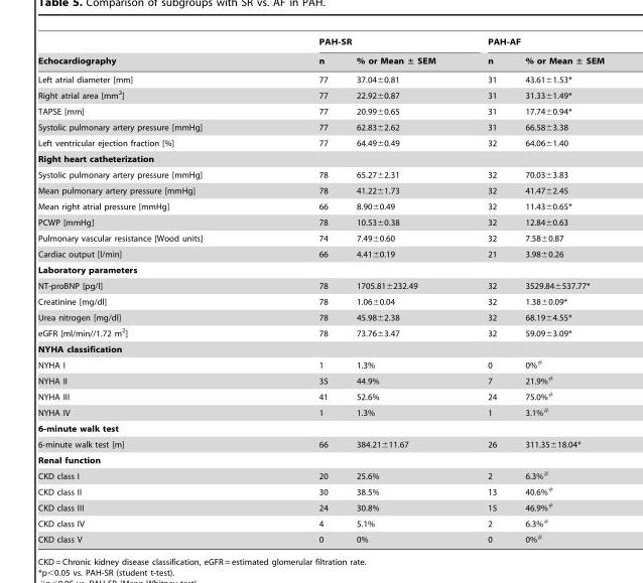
<table><thead><tr><td rowspan="2">Echocardiography</td><td colspan="2">PAH-SR</td><td colspan="2">PAH-AF</td></tr><tr><td>n</td><td>% or Mean ± SEM</td><td>n</td><td>% or Mean ± SEM</td></tr></thead><tbody><tr><td>Left atrial diameter [mm]</td><td>77</td><td>37.04±0.81</td><td>31</td><td>43.61±1.53*</td></tr><tr><td>Right atrial area [mm<sup>2</sup>]</td><td>77</td><td>22.92±0.87</td><td>31</td><td>31.33±1.49*</td></tr><tr><td>TAPSE [mm]</td><td>77</td><td>20.99±0.65</td><td>31</td><td>17.74±0.94*</td></tr><tr><td>Systolic pulmonary artery pressure [mmHg]</td><td>77</td><td>62.83±2.62</td><td>31</td><td>66.58±3.38</td></tr><tr><td>Left ventricular ejection fraction [%]</td><td>77</td><td>64.49±0.49</td><td>32</td><td>64.06±1.40</td></tr><tr><td colspan="5">Right heart catheterization</td></tr><tr><td>Systolic pulmonary artery pressure [mmHg]</td><td>78</td><td>65.27±2.31</td><td>32</td><td>70.03±3.83</td></tr><tr><td>Mean pulmonary artery pressure [mmHg]</td><td>78</td><td>41.22±1.73</td><td>32</td><td>41.47±2.45</td></tr><tr><td>Mean right atrial pressure [mmHg]</td><td>66</td><td>8.90±0.49</td><td>32</td><td>11.43±0.65*</td></tr><tr><td>PCWP [mmHg]</td><td>78</td><td>10.53±0.38</td><td>32</td><td>12.84±0.63</td></tr><tr><td>Pulmonary vascular resistance [Wood units]</td><td>74</td><td>7.49±0.60</td><td>32</td><td>7.58±0.87</td></tr><tr><td>Cardiac output [l/min]</td><td>66</td><td>4.41±0.19</td><td>21</td><td>3.98±0.26</td></tr><tr><td colspan="5">Laboratory parameters</td></tr><tr><td>NT-proBNP [pg/l]</td><td>78</td><td>1705.81±232.49</td><td>32</td><td>3529.84±537.77*</td></tr><tr><td>Creatinine [mg/dl]</td><td>78</td><td>1.06±0.04</td><td>32</td><td>1.38±0.09*</td></tr><tr><td>Urea nitrogen [mg/dl]</td><td>78</td><td>45.98±2.38</td><td>32</td><td>68.19±4.55*</td></tr><tr><td>eGFR [ml/min//1.72 m<sup>2</sup>]</td><td>78</td><td>73.76±3.47</td><td>32</td><td>59.09±3.09*</td></tr><tr><td colspan="5">NYHA classification</td></tr><tr><td>NYHA I</td><td>1</td><td>1.3%</td><td>0</td><td>0%#</td></tr><tr><td>NYHA II</td><td>35</td><td>44.9%</td><td>7</td><td>21.9%#</td></tr><tr><td>NYHA III</td><td>41</td><td>52.6%</td><td>24</td><td>75.0%#</td></tr><tr><td>NYHA IV</td><td>1</td><td>1.3%</td><td>1</td><td>3.1%#</td></tr><tr><td colspan="5">6-minute walk test</td></tr><tr><td>6-minute walk test [m]</td><td>66</td><td>384.21±11.67</td><td>26</td><td>311.35±18.04*</td></tr><tr><td colspan="5">Renal function</td></tr><tr><td>CKD class I</td><td>20</td><td>25.6%</td><td>2</td><td>6.3%#</td></tr><tr><td>CKD class II</td><td>30</td><td>38.5%</td><td>13</td><td>40.6%#</td></tr><tr><td>CKD class III</td><td>24</td><td>30.8%</td><td>15</td><td>46.9%#</td></tr><tr><td>CKD class IV</td><td>4</td><td>5.1%</td><td>2</td><td>6.3%#</td></tr><tr><td>CKD class V</td><td>0</td><td>0%</td><td>0</td><td>0%#</td></tr></tbody></table>